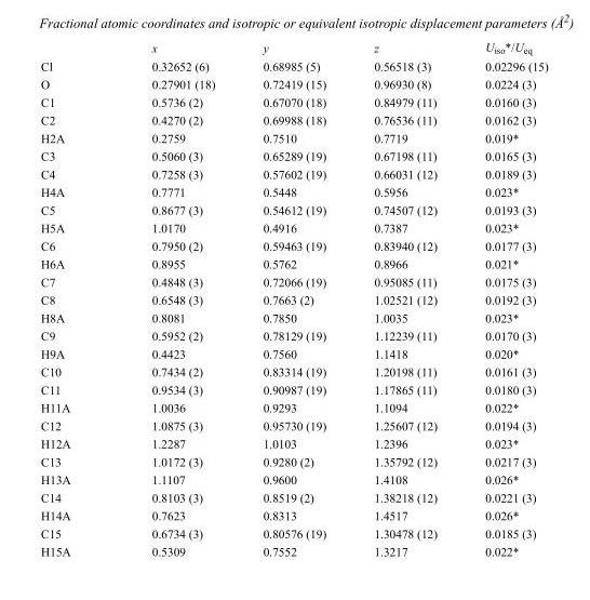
<table><thead><tr><td></td><td>x</td><td>y</td><td>z</td><td>U<sub>iso</sub>*/U<sub>eq</sub></td></tr></thead><tbody><tr><td>Cl</td><td>0.32652 (6)</td><td>0.68985 (5)</td><td>0.56518 (3)</td><td>0.02296 (15)</td></tr><tr><td>O</td><td>0.27901 (18)</td><td>0.72419 (15)</td><td>0.96930 (8)</td><td>0.0224 (3)</td></tr><tr><td>C1</td><td>0.5736 (2)</td><td>0.67070 (18)</td><td>0.84979 (11)</td><td>0.0160 (3)</td></tr><tr><td>C2</td><td>0.4270 (2)</td><td>0.69988 (18)</td><td>0.76536 (11)</td><td>0.0162 (3)</td></tr><tr><td>H2A</td><td>0.2759</td><td>0.7510</td><td>0.7719</td><td>0.019*</td></tr><tr><td>C3</td><td>0.5060 (3)</td><td>0.65289 (19)</td><td>0.67198 (11)</td><td>0.0165 (3)</td></tr><tr><td>C4</td><td>0.7258 (3)</td><td>0.57602 (19)</td><td>0.66031 (12)</td><td>0.0189 (3)</td></tr><tr><td>H4A</td><td>0.7771</td><td>0.5448</td><td>0.5956</td><td>0.023*</td></tr><tr><td>C5</td><td>0.8677 (3)</td><td>0.54612 (19)</td><td>0.74507 (12)</td><td>0.0193 (3)</td></tr><tr><td>H5A</td><td>1.0170</td><td>0.4916</td><td>0.7387</td><td>0.023*</td></tr><tr><td>C6</td><td>0.7950 (2)</td><td>0.59463 (19)</td><td>0.83940 (12)</td><td>0.0177 (3)</td></tr><tr><td>H6A</td><td>0.8955</td><td>0.5762</td><td>0.8966</td><td>0.021*</td></tr><tr><td>C7</td><td>0.4848 (3)</td><td>0.72066 (19)</td><td>0.95085 (11)</td><td>0.0175 (3)</td></tr><tr><td>C8</td><td>0.6548 (3)</td><td>0.7663 (2)</td><td>1.02521 (12)</td><td>0.0192 (3)</td></tr><tr><td>H8A</td><td>0.8081</td><td>0.7850</td><td>1.0035</td><td>0.023*</td></tr><tr><td>C9</td><td>0.5952 (2)</td><td>0.78129 (19)</td><td>1.12239 (11)</td><td>0.0170 (3)</td></tr><tr><td>H9A</td><td>0.4423</td><td>0.7560</td><td>1.1418</td><td>0.020*</td></tr><tr><td>C10</td><td>0.7434 (2)</td><td>0.83314 (19)</td><td>1.20198 (11)</td><td>0.0161 (3)</td></tr><tr><td>C11</td><td>0.9534 (3)</td><td>0.90987 (19)</td><td>1.17865 (11)</td><td>0.0180 (3)</td></tr><tr><td>H11A</td><td>1.0036</td><td>0.9293</td><td>1.1094</td><td>0.022*</td></tr><tr><td>C12</td><td>1.0875 (3)</td><td>0.95730 (19)</td><td>1.25607 (12)</td><td>0.0194 (3)</td></tr><tr><td>H12A</td><td>1.2287</td><td>1.0103</td><td>1.2396</td><td>0.023*</td></tr><tr><td>C13</td><td>1.0172 (3)</td><td>0.9280 (2)</td><td>1.35792 (12)</td><td>0.0217 (3)</td></tr><tr><td>H13A</td><td>1.1107</td><td>0.9600</td><td>1.4108</td><td>0.026*</td></tr><tr><td>C14</td><td>0.8103 (3)</td><td>0.8519 (2)</td><td>1.38218 (12)</td><td>0.0221 (3)</td></tr><tr><td>H14A</td><td>0.7623</td><td>0.8313</td><td>1.4517</td><td>0.026*</td></tr><tr><td>C15</td><td>0.6734 (3)</td><td>0.80576 (19)</td><td>1.30478 (12)</td><td>0.0185 (3)</td></tr><tr><td>H15A</td><td>0.5309</td><td>0.7552</td><td>1.3217</td><td>0.022*</td></tr></tbody></table>